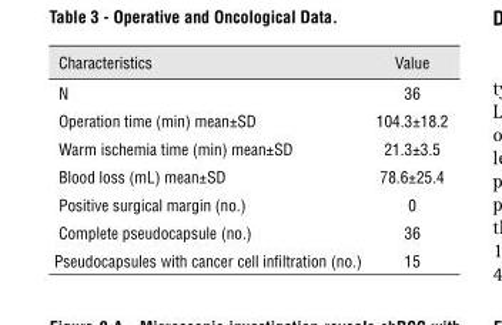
<table><thead><tr><td>Characteristics</td><td>Value</td></tr></thead><tbody><tr><td>N</td><td>36</td></tr><tr><td>Operation time (min) mean±SD</td><td>104.3±18.2</td></tr><tr><td>Warm ischemia time (min) mean±SD</td><td>21.3±3.5</td></tr><tr><td>Blood loss (mL) mean±SD</td><td>78.6±25.4</td></tr><tr><td>Positive surgical margin (no.)</td><td>0</td></tr><tr><td>Complete pseudocapsule (no.)</td><td>36</td></tr><tr><td>Pseudocapsules with cancer cell infiltration (no.)</td><td>15</td></tr></tbody></table>